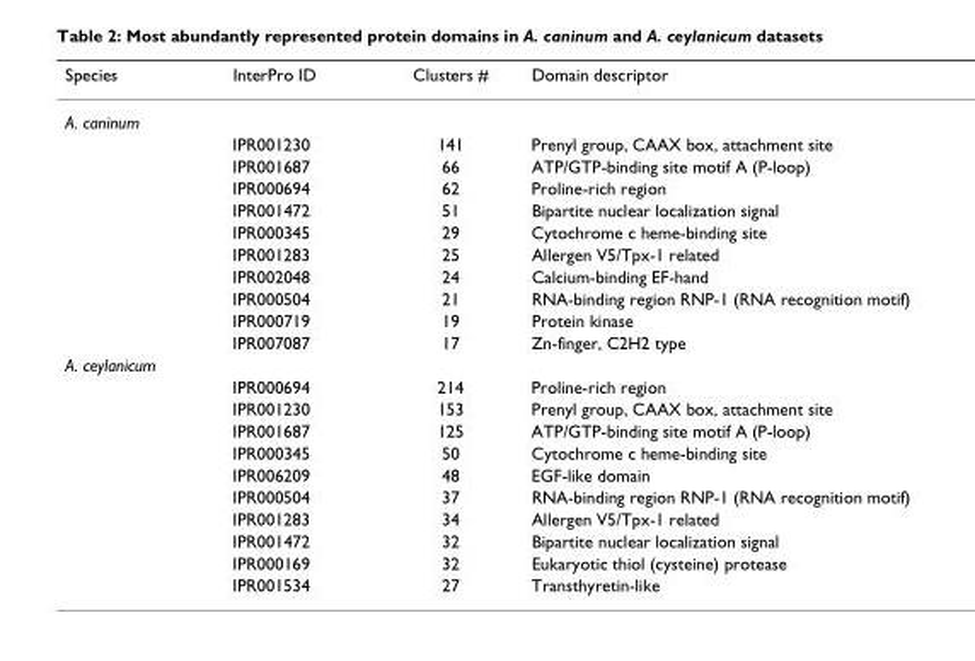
<table><thead><tr><td>Species</td><td>InterPro ID</td><td>Clusters #</td><td>Domain descriptor</td></tr></thead><tbody><tr><td colspan="4">A. caninum</td></tr><tr><td></td><td>IPR001230</td><td>141</td><td>Prenyl group, CAAX box, attachment site</td></tr><tr><td></td><td>IPR001687</td><td>66</td><td>ATP/GTP-binding site motif A (P-loop)</td></tr><tr><td></td><td>IPR000694</td><td>62</td><td>Proline-rich region</td></tr><tr><td></td><td>IPR001472</td><td>51</td><td>Bipartite nuclear localization signal</td></tr><tr><td></td><td>IPR000345</td><td>29</td><td>Cytochrome c heme-binding site</td></tr><tr><td></td><td>IPR001283</td><td>25</td><td>Allergen V5/Tpx-1 related</td></tr><tr><td></td><td>IPR002048</td><td>24</td><td>Calcium-binding EF-hand</td></tr><tr><td></td><td>IPR000504</td><td>21</td><td>RNA-binding region RNP-1 (RNA recognition motif)</td></tr><tr><td></td><td>IPR000719</td><td>19</td><td>Protein kinase</td></tr><tr><td></td><td>IPR007087</td><td>17</td><td>Zn-finger, C2H2 type</td></tr><tr><td colspan="4">A. ceylanicum</td></tr><tr><td></td><td>IPR000694</td><td>214</td><td>Proline-rich region</td></tr><tr><td></td><td>IPR001230</td><td>153</td><td>Prenyl group, CAAX box, attachment site</td></tr><tr><td></td><td>IPR001687</td><td>125</td><td>ATP/GTP-binding site motif A (P-loop)</td></tr><tr><td></td><td>IPR000345</td><td>50</td><td>Cytochrome c heme-binding site</td></tr><tr><td></td><td>IPR006209</td><td>48</td><td>EGF-like domain</td></tr><tr><td></td><td>IPR000504</td><td>37</td><td>RNA-binding region RNP-1 (RNA recognition motif)</td></tr><tr><td></td><td>IPR001283</td><td>34</td><td>Allergen V5/Tpx-1 related</td></tr><tr><td></td><td>IPR001472</td><td>32</td><td>Bipartite nuclear localization signal</td></tr><tr><td></td><td>IPR000169</td><td>32</td><td>Eukaryotic thiol (cysteine) protease</td></tr><tr><td></td><td>IPR001534</td><td>27</td><td>Transthyretin-like</td></tr></tbody></table>